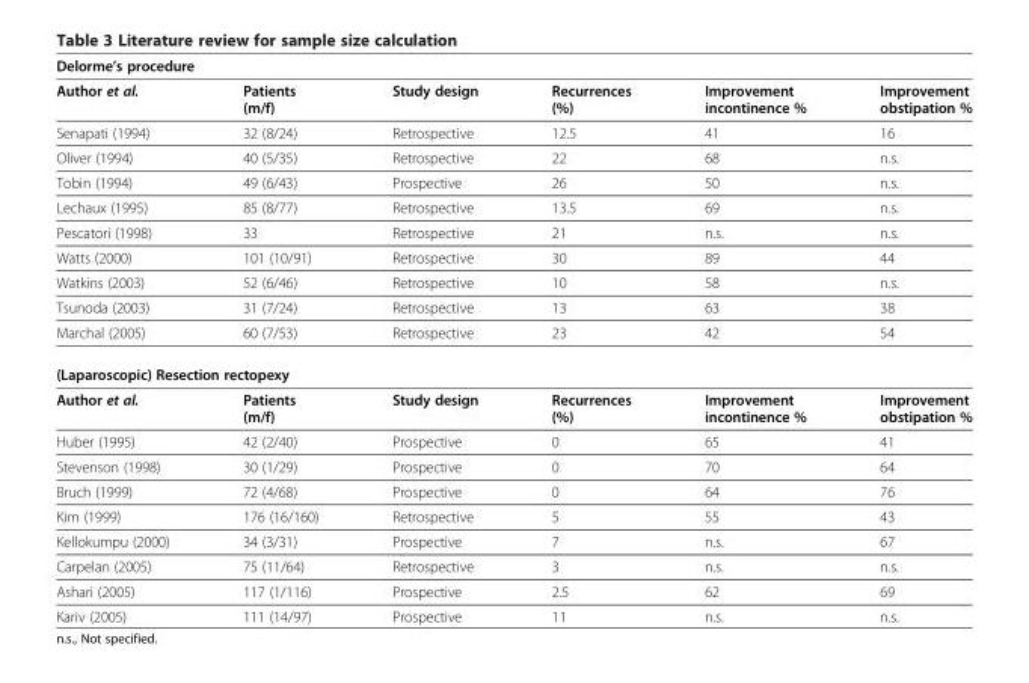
<table><thead><tr><td colspan="6">Delorme’s procedure</td></tr><tr><td>Author et al.</td><td>Patients (m/f)</td><td>Study design</td><td>Recurrences (%)</td><td>Improvement incontinence %</td><td>Improvement obstipation %</td></tr></thead><tbody><tr><td>Senapati (1994)</td><td>32 (8/24)</td><td>Retrospective</td><td>12.5</td><td>41</td><td>16</td></tr><tr><td>Oliver (1994)</td><td>40 (5/35)</td><td>Retrospective</td><td>22</td><td>68</td><td>n.s.</td></tr><tr><td>Tobin (1994)</td><td>49 (6/43)</td><td>Prospective</td><td>26</td><td>50</td><td>n.s.</td></tr><tr><td>Lechaux (1995)</td><td>85 (8/77)</td><td>Retrospective</td><td>13.5</td><td>69</td><td>n.s.</td></tr><tr><td>Pescatori (1998)</td><td>33</td><td>Retrospective</td><td>21</td><td>n.s.</td><td>n.s.</td></tr><tr><td>Watts (2000)</td><td>101 (10/91)</td><td>Retrospective</td><td>30</td><td>89</td><td>44</td></tr><tr><td>Watkins (2003)</td><td>52 (6/46)</td><td>Retrospective</td><td>10</td><td>58</td><td>n.s.</td></tr><tr><td>Tsunoda (2003)</td><td>31 (7/24)</td><td>Retrospective</td><td>13</td><td>63</td><td>38</td></tr><tr><td>Marchal (2005)</td><td>60 (7/53)</td><td>Retrospective</td><td>23</td><td>42</td><td>54</td></tr><tr><td colspan="6">(Laparoscopic) Resection rectopexy</td></tr><tr><td>Author et al.</td><td>Patients (m/f)</td><td>Study design</td><td>Recurrences (%)</td><td>Improvement incontinence %</td><td>Improvement obstipation %</td></tr><tr><td>Huber (1995)</td><td>42 (2/40)</td><td>Prospective</td><td>0</td><td>65</td><td>41</td></tr><tr><td>Stevenson (1998)</td><td>30 (1/29)</td><td>Prospective</td><td>0</td><td>70</td><td>64</td></tr><tr><td>Bruch (1999)</td><td>72 (4/68)</td><td>Prospective</td><td>0</td><td>64</td><td>76</td></tr><tr><td>Kim (1999)</td><td>176 (16/160)</td><td>Retrospective</td><td>5</td><td>55</td><td>43</td></tr><tr><td>Kellokumpu (2000)</td><td>34 (3/31)</td><td>Prospective</td><td>7</td><td>n.s.</td><td>67</td></tr><tr><td>Carpelan (2005)</td><td>75 (11/64)</td><td>Retrospective</td><td>3</td><td>n.s.</td><td>n.s.</td></tr><tr><td>Ashari (2005)</td><td>117 (1/116)</td><td>Prospective</td><td>2.5</td><td>62</td><td>69</td></tr><tr><td>Kariv (2005)</td><td>111 (14/97)</td><td>Prospective</td><td>11</td><td>n.s.</td><td>n.s.</td></tr></tbody></table>